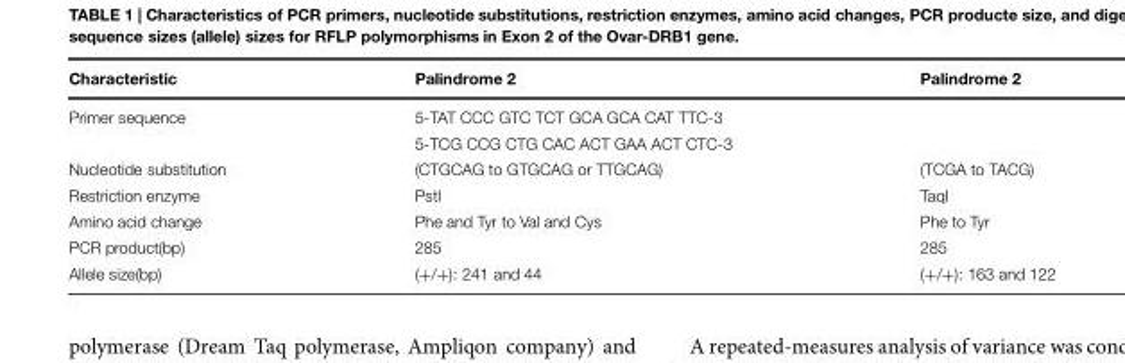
<table><thead><tr><td>Characteristic</td><td>Palindrome 2</td><td>Palindrome 2</td></tr></thead><tbody><tr><td rowspan="2">Primer sequence</td><td>5-TAT CCC GTC TCT GCA GCA CAT TTC-3</td><td></td></tr><tr><td>5-TCG CCG CTG CAC ACT GAA ACT CTC-3</td><td></td></tr><tr><td>Nucleotide substitution</td><td>(CTGCAG to GTGCAG or TTGCAG)</td><td>(TCGA to TACG)</td></tr><tr><td>Restriction enzyme</td><td>PstI</td><td>TaqI</td></tr><tr><td>Amino acid change</td><td>Phe and Tyr to Val and Cys</td><td>Phe to Tyr</td></tr><tr><td>PCR product(bp)</td><td>285</td><td>285</td></tr><tr><td>Allele size(bp)</td><td>(+/+): 241 and 44</td><td>(+/+): 163 and 122</td></tr></tbody></table>